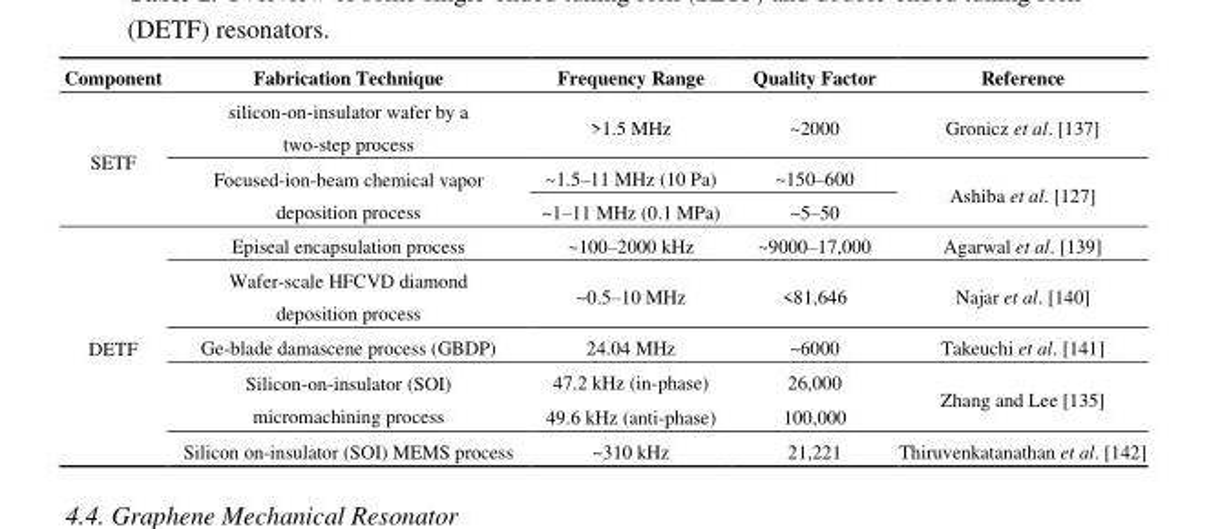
<table><thead><tr><td>Component</td><td>Fabrication Technique</td><td>Frequency Range</td><td>Quality Factor</td><td>Reference</td></tr></thead><tbody><tr><td rowspan="3">SETF</td><td>silicon-on-insulator wafer by a two-step process</td><td>&gt;1.5 MHz</td><td>~2000</td><td>Gronicz et al. [137]</td></tr><tr><td rowspan="2">Focused-ion-beam chemical vapor deposition process</td><td>~1.5–11 MHz (10 Pa)</td><td>~150–600</td><td rowspan="2">Ashiba et al. [127]</td></tr><tr><td>~1–11 MHz (0.1 MPa)</td><td>~5–50</td></tr><tr><td rowspan="6">DETF</td><td>Episeal encapsulation process</td><td>~100–2000 kHz</td><td>~9000–17,000</td><td>Agarwal et al. [139]</td></tr><tr><td>Wafer-scale HFCVD diamond deposition process</td><td>~0.5–10 MHz</td><td>&lt;81,646</td><td>Najar et al. [140]</td></tr><tr><td>Ge-blade damascene process (GBDP)</td><td>24.04 MHz</td><td>~6000</td><td>Takeuchi et al. [141]</td></tr><tr><td rowspan="2">Silicon-on-insulator (SOI) micromachining process</td><td>47.2 kHz (in-phase)</td><td>26,000</td><td rowspan="2">Zhang and Lee [135]</td></tr><tr><td>49.6 kHz (anti-phase)</td><td>100,000</td></tr><tr><td>Silicon on-insulator (SOI) MEMS process</td><td>~310 kHz</td><td>21,221</td><td>Thiruvenkatanathan et al. [142]</td></tr></tbody></table>